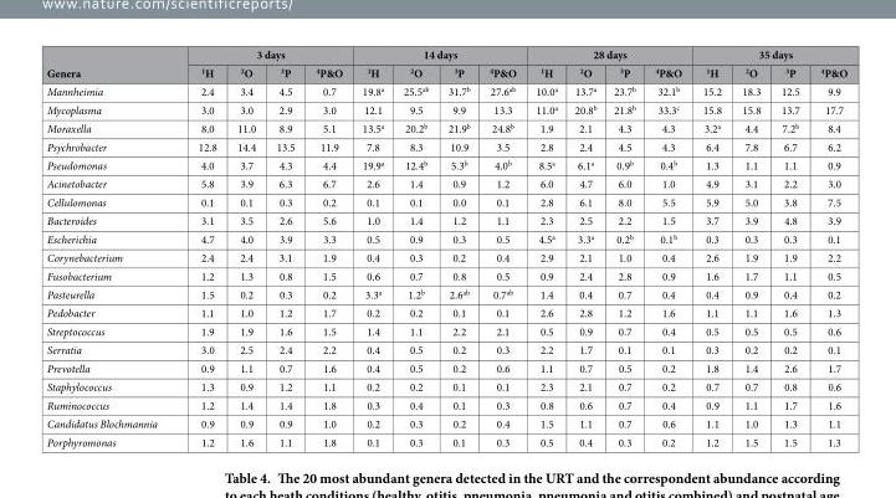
<table><thead><tr><td rowspan="2">Genera</td><td colspan="4">3 days</td><td colspan="4">14 days</td><td colspan="4">28 days</td><td colspan="4">35 days</td></tr><tr><td><sup>1</sup>H</td><td><sup>2</sup>O</td><td><sup>3</sup>P</td><td><sup>4</sup>P&amp;O</td><td><sup>1</sup>H</td><td><sup>2</sup>O</td><td><sup>3</sup>P</td><td><sup>4</sup>P&amp;O</td><td><sup>1</sup>H</td><td><sup>2</sup>O</td><td><sup>3</sup>P</td><td><sup>4</sup>P&amp;O</td><td><sup>1</sup>H</td><td><sup>2</sup>O</td><td><sup>3</sup>P</td><td><sup>4</sup>P&amp;O</td></tr></thead><tbody><tr><td>Mannheimia</td><td>2.4</td><td>3.4</td><td>4.5</td><td>0.7</td><td>19.8<sup>a</sup></td><td>25.5<sup>ab</sup></td><td>31.7<sup>b</sup></td><td>27.6<sup>ab</sup></td><td>10.0<sup>a</sup></td><td>13.7<sup>a</sup></td><td>23.7<sup>b</sup></td><td>32.1<sup>b</sup></td><td>15.2</td><td>18.3</td><td>12.5</td><td>9.9</td></tr><tr><td>Mycoplasma</td><td>3.0</td><td>3.0</td><td>2.9</td><td>3.0</td><td>12.1</td><td>9.5</td><td>9.9</td><td>13.3</td><td>11.0<sup>a</sup></td><td>20.8<sup>b</sup></td><td>21.8<sup>b</sup></td><td>33.3<sup>c</sup></td><td>15.8</td><td>15.8</td><td>13.7</td><td>17.7</td></tr><tr><td>Moraxella</td><td>8.0</td><td>11.0</td><td>8.9</td><td>5.1</td><td>13.5<sup>a</sup></td><td>20.2<sup>b</sup></td><td>21.9<sup>b</sup></td><td>24.8<sup>b</sup></td><td>1.9</td><td>2.1</td><td>4.3</td><td>4.3</td><td>3.2<sup>a</sup></td><td>4.4</td><td>7.2<sup>b</sup></td><td>8.4</td></tr><tr><td>Psychrobacter</td><td>12.8</td><td>14.4</td><td>13.5</td><td>11.9</td><td>7.8</td><td>8.3</td><td>10.9</td><td>3.5</td><td>2.8</td><td>2.4</td><td>4.5</td><td>4.3</td><td>6.4</td><td>7.8</td><td>6.7</td><td>6.2</td></tr><tr><td>Pseudomonas</td><td>4.0</td><td>3.7</td><td>4.3</td><td>4.4</td><td>19.9<sup>a</sup></td><td>12.4<sup>b</sup></td><td>5.3<sup>b</sup></td><td>4.0<sup>b</sup></td><td>8.5<sup>a</sup></td><td>6.1<sup>a</sup></td><td>0.9<sup>b</sup></td><td>0.4<sup>b</sup></td><td>1.3</td><td>1.1</td><td>1.1</td><td>0.9</td></tr><tr><td>Acinetobacter</td><td>5.8</td><td>3.9</td><td>6.3</td><td>6.7</td><td>2.6</td><td>1.4</td><td>0.9</td><td>1.2</td><td>6.0</td><td>4.7</td><td>6.0</td><td>1.0</td><td>4.9</td><td>3.1</td><td>2.2</td><td>3.0</td></tr><tr><td>Cellulomonas</td><td>0.1</td><td>0.1</td><td>0.3</td><td>0.2</td><td>0.1</td><td>0.1</td><td>0.0</td><td>0.1</td><td>2.8</td><td>6.1</td><td>8.0</td><td>5.5</td><td>5.9</td><td>5.0</td><td>3.8</td><td>7.5</td></tr><tr><td>Bacteroides</td><td>3.1</td><td>3.5</td><td>2.6</td><td>5.6</td><td>1.0</td><td>1.4</td><td>1.2</td><td>1.1</td><td>2.3</td><td>2.5</td><td>2.2</td><td>1.5</td><td>3.7</td><td>3.9</td><td>4.8</td><td>3.9</td></tr><tr><td>Escherichia</td><td>4.7</td><td>4.0</td><td>3.9</td><td>3.3</td><td>0.5</td><td>0.9</td><td>0.3</td><td>0.5</td><td>4.5<sup>a</sup></td><td>3.3<sup>a</sup></td><td>0.2<sup>b</sup></td><td>0.1<sup>b</sup></td><td>0.3</td><td>0.3</td><td>0.3</td><td>0.1</td></tr><tr><td>Corynebacterium</td><td>2.4</td><td>2.4</td><td>3.1</td><td>1.9</td><td>0.4</td><td>0.3</td><td>0.2</td><td>0.4</td><td>2.9</td><td>2.1</td><td>1.0</td><td>0.4</td><td>2.6</td><td>1.9</td><td>1.9</td><td>2.2</td></tr><tr><td>Fusobacterium</td><td>1.2</td><td>1.3</td><td>0.8</td><td>1.5</td><td>0.6</td><td>0.7</td><td>0.8</td><td>0.5</td><td>0.9</td><td>2.4</td><td>2.8</td><td>0.9</td><td>1.6</td><td>1.7</td><td>1.1</td><td>0.5</td></tr><tr><td>Pasteurella</td><td>1.5</td><td>0.2</td><td>0.3</td><td>0.2</td><td>3.3<sup>a</sup></td><td>1.2<sup>b</sup></td><td>2.6<sup>ab</sup></td><td>0.7<sup>ab</sup></td><td>1.4</td><td>0.4</td><td>0.7</td><td>0.4</td><td>0.4</td><td>0.9</td><td>0.4</td><td>0.2</td></tr><tr><td>Pedobacter</td><td>1.1</td><td>1.0</td><td>1.2</td><td>1.7</td><td>0.2</td><td>0.2</td><td>0.1</td><td>0.1</td><td>2.6</td><td>2.8</td><td>1.2</td><td>1.6</td><td>1.1</td><td>1.1</td><td>1.6</td><td>1.3</td></tr><tr><td>Streptococcus</td><td>1.9</td><td>1.9</td><td>1.6</td><td>1.5</td><td>1.4</td><td>1.1</td><td>2.2</td><td>2.1</td><td>0.5</td><td>0.9</td><td>0.7</td><td>0.4</td><td>0.5</td><td>0.5</td><td>0.5</td><td>0.6</td></tr><tr><td>Serratia</td><td>3.0</td><td>2.5</td><td>2.4</td><td>2.2</td><td>0.4</td><td>0.5</td><td>0.2</td><td>0.3</td><td>2.2</td><td>1.7</td><td>0.1</td><td>0.1</td><td>0.3</td><td>0.2</td><td>0.2</td><td>0.1</td></tr><tr><td>Prevotella</td><td>0.9</td><td>1.1</td><td>0.7</td><td>1.6</td><td>0.4</td><td>0.5</td><td>0.2</td><td>0.6</td><td>1.1</td><td>0.7</td><td>0.5</td><td>0.2</td><td>1.8</td><td>1.4</td><td>2.6</td><td>1.7</td></tr><tr><td>Staphylococcus</td><td>1.3</td><td>0.9</td><td>1.2</td><td>1.1</td><td>0.2</td><td>0.2</td><td>0.1</td><td>0.1</td><td>2.3</td><td>2.1</td><td>0.7</td><td>0.2</td><td>0.7</td><td>0.7</td><td>0.8</td><td>0.6</td></tr><tr><td>Ruminococcus</td><td>1.2</td><td>1.4</td><td>1.4</td><td>1.8</td><td>0.3</td><td>0.4</td><td>0.1</td><td>0.3</td><td>0.8</td><td>0.6</td><td>0.7</td><td>0.4</td><td>0.9</td><td>1.1</td><td>1.7</td><td>1.6</td></tr><tr><td>Candidatus Blochmannia</td><td>0.9</td><td>0.9</td><td>0.9</td><td>1.0</td><td>0.2</td><td>0.3</td><td>0.2</td><td>0.4</td><td>1.5</td><td>1.1</td><td>0.7</td><td>0.6</td><td>1.1</td><td>1.0</td><td>1.3</td><td>1.1</td></tr><tr><td>Porphyromonas</td><td>1.2</td><td>1.6</td><td>1.1</td><td>1.8</td><td>0.1</td><td>0.3</td><td>0.1</td><td>0.3</td><td>0.5</td><td>0.4</td><td>0.3</td><td>0.2</td><td>1.2</td><td>1.5</td><td>1.5</td><td>1.3</td></tr></tbody></table>